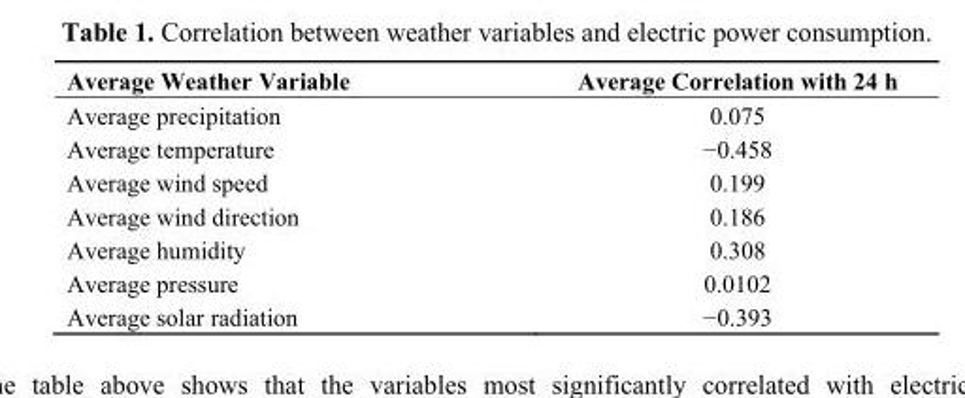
<table><thead><tr><td>Average Weather Variable</td><td>Average Correlation with 24 h</td></tr></thead><tbody><tr><td>Average precipitation</td><td>0.075</td></tr><tr><td>Average temperature</td><td>−0.458</td></tr><tr><td>Average wind speed</td><td>0.199</td></tr><tr><td>Average wind direction</td><td>0.186</td></tr><tr><td>Average humidity</td><td>0.308</td></tr><tr><td>Average pressure</td><td>0.0102</td></tr><tr><td>Average solar radiation</td><td>−0.393</td></tr></tbody></table>